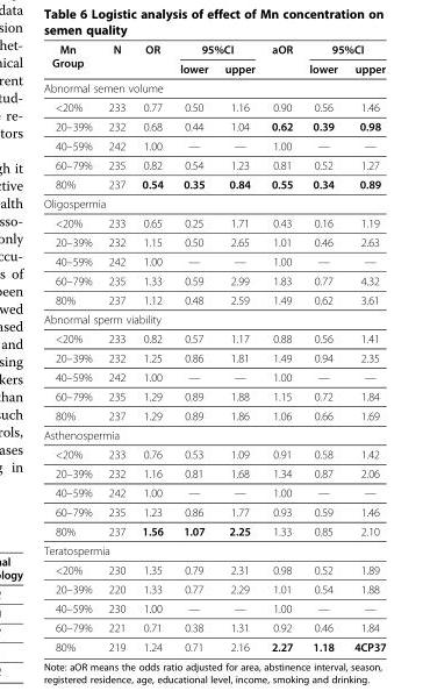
<table><thead><tr><td rowspan="2">Mn Group</td><td rowspan="2">N</td><td rowspan="2">OR</td><td colspan="2">95%CI</td><td rowspan="2">aOR</td><td colspan="2">95%CI</td></tr><tr><td>lower</td><td>upper</td><td>lower</td><td>upper</td></tr></thead><tbody><tr><td colspan="8">Abnormal semen volume</td></tr><tr><td>&lt;20%</td><td>233</td><td>0.77</td><td>0.50</td><td>1.16</td><td>0.90</td><td>0.56</td><td>1.46</td></tr><tr><td>20–39%</td><td>232</td><td>0.68</td><td>0.44</td><td>1.04</td><td>0.62</td><td>0.39</td><td>0.98</td></tr><tr><td>40–59%</td><td>242</td><td>1.00</td><td>—</td><td>—</td><td>1.00</td><td>—</td><td>—</td></tr><tr><td>60–79%</td><td>235</td><td>0.82</td><td>0.54</td><td>1.23</td><td>0.81</td><td>0.52</td><td>1.27</td></tr><tr><td>80%</td><td>237</td><td>0.54</td><td>0.35</td><td>0.84</td><td>0.55</td><td>0.34</td><td>0.89</td></tr><tr><td colspan="8">Oligospermia</td></tr><tr><td>&lt;20%</td><td>233</td><td>0.65</td><td>0.25</td><td>1.71</td><td>0.43</td><td>0.16</td><td>1.19</td></tr><tr><td>20–39%</td><td>232</td><td>1.15</td><td>0.50</td><td>2.65</td><td>1.01</td><td>0.46</td><td>2.63</td></tr><tr><td>40–59%</td><td>242</td><td>1.00</td><td>—</td><td>—</td><td>1.00</td><td>—</td><td>—</td></tr><tr><td>60–79%</td><td>235</td><td>1.33</td><td>0.59</td><td>2.99</td><td>1.83</td><td>0.77</td><td>4.32</td></tr><tr><td>80%</td><td>237</td><td>1.12</td><td>0.48</td><td>2.59</td><td>1.49</td><td>0.62</td><td>3.61</td></tr><tr><td colspan="8">Abnormal sperm viability</td></tr><tr><td>&lt;20%</td><td>233</td><td>0.82</td><td>0.57</td><td>1.17</td><td>0.88</td><td>0.56</td><td>1.41</td></tr><tr><td>20–39%</td><td>232</td><td>1.25</td><td>0.86</td><td>1.81</td><td>1.49</td><td>0.94</td><td>2.35</td></tr><tr><td>40–59%</td><td>242</td><td>1.00</td><td>—</td><td>—</td><td>1.00</td><td>—</td><td>—</td></tr><tr><td>60–79%</td><td>235</td><td>1.29</td><td>0.89</td><td>1.88</td><td>1.15</td><td>0.72</td><td>1.84</td></tr><tr><td>80%</td><td>237</td><td>1.29</td><td>0.89</td><td>1.86</td><td>1.06</td><td>0.66</td><td>1.69</td></tr><tr><td colspan="8">Asthenospermia</td></tr><tr><td>&lt;20%</td><td>233</td><td>0.76</td><td>0.53</td><td>1.09</td><td>0.91</td><td>0.58</td><td>1.42</td></tr><tr><td>20–39%</td><td>232</td><td>1.16</td><td>0.81</td><td>1.68</td><td>1.34</td><td>0.87</td><td>2.06</td></tr><tr><td>40–59%</td><td>242</td><td>1.00</td><td>—</td><td>—</td><td>1.00</td><td>—</td><td>—</td></tr><tr><td>60–79%</td><td>235</td><td>1.23</td><td>0.86</td><td>1.77</td><td>0.93</td><td>0.59</td><td>1.46</td></tr><tr><td>80%</td><td>237</td><td>1.56</td><td>1.07</td><td>2.25</td><td>1.33</td><td>0.85</td><td>2.10</td></tr><tr><td colspan="8">Teratospermia</td></tr><tr><td>&lt;20%</td><td>230</td><td>1.35</td><td>0.79</td><td>2.31</td><td>0.98</td><td>0.52</td><td>1.89</td></tr><tr><td>20–39%</td><td>220</td><td>1.33</td><td>0.77</td><td>2.29</td><td>1.01</td><td>0.54</td><td>1.88</td></tr><tr><td>40–59%</td><td>230</td><td>1.00</td><td>—</td><td>—</td><td>1.00</td><td>—</td><td>—</td></tr><tr><td>60–79%</td><td>221</td><td>0.71</td><td>0.38</td><td>1.31</td><td>0.92</td><td>0.46</td><td>1.84</td></tr><tr><td>80%</td><td>219</td><td>1.24</td><td>0.71</td><td>2.16</td><td>2.27</td><td>1.18</td><td>4CP37</td></tr></tbody></table>